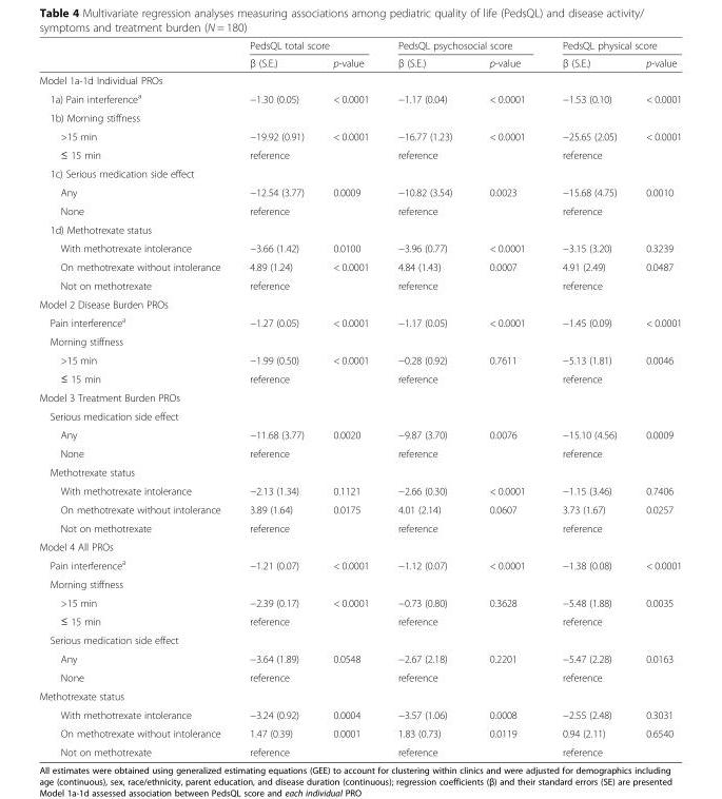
<table><thead><tr><td rowspan="2"></td><td colspan="2">PedsQL total score</td><td colspan="2">PedsQL psychosocial score</td><td colspan="2">PedsQL physical score</td></tr><tr><td>β (S.E.)</td><td>p-value</td><td>β (S.E.)</td><td>p-value</td><td>β (S.E.)</td><td>p-value</td></tr></thead><tbody><tr><td colspan="7">Model 1a-1d Individual PROs</td></tr><tr><td>1a) Pain interference<sup>a</sup></td><td>−1.30 (0.05)</td><td>&lt; 0.0001</td><td>−1.17 (0.04)</td><td>&lt; 0.0001</td><td>−1.53 (0.10)</td><td>&lt; 0.0001</td></tr><tr><td colspan="7">1b) Morning stiffness</td></tr><tr><td>&gt;15 min</td><td>−19.92 (0.91)</td><td>&lt; 0.0001</td><td>−16.77 (1.23)</td><td>&lt; 0.0001</td><td>−25.65 (2.05)</td><td>&lt; 0.0001</td></tr><tr><td>≤ 15 min</td><td colspan="2">reference</td><td colspan="2">reference</td><td colspan="2">reference</td></tr><tr><td colspan="7">1c) Serious medication side effect</td></tr><tr><td>Any</td><td>−12.54 (3.77)</td><td>0.0009</td><td>−10.82 (3.54)</td><td>0.0023</td><td>−15.68 (4.75)</td><td>0.0010</td></tr><tr><td>None</td><td colspan="2">reference</td><td colspan="2">reference</td><td colspan="2">reference</td></tr><tr><td colspan="7">1d) Methotrexate status</td></tr><tr><td>With methotrexate intolerance</td><td>−3.66 (1.42)</td><td>0.0100</td><td>−3.96 (0.77)</td><td>&lt; 0.0001</td><td>−3.15 (3.20)</td><td>0.3239</td></tr><tr><td>On methotrexate without intolerance</td><td>4.89 (1.24)</td><td>&lt; 0.0001</td><td>4.84 (1.43)</td><td>0.0007</td><td>4.91 (2.49)</td><td>0.0487</td></tr><tr><td>Not on methotrexate</td><td colspan="2">reference</td><td colspan="2">reference</td><td colspan="2">reference</td></tr><tr><td colspan="7">Model 2 Disease Burden PROs</td></tr><tr><td>Pain interference<sup>a</sup></td><td>−1.27 (0.05)</td><td>&lt; 0.0001</td><td>−1.17 (0.05)</td><td>&lt; 0.0001</td><td>−1.45 (0.09)</td><td>&lt; 0.0001</td></tr><tr><td colspan="7">Morning stiffness</td></tr><tr><td>&gt;15 min</td><td>−1.99 (0.50)</td><td>&lt; 0.0001</td><td>−0.28 (0.92)</td><td>0.7611</td><td>−5.13 (1.81)</td><td>0.0046</td></tr><tr><td>≤ 15 min</td><td colspan="2">reference</td><td colspan="2">reference</td><td colspan="2">reference</td></tr><tr><td colspan="7">Model 3 Treatment Burden PROs</td></tr><tr><td colspan="7">Serious medication side effect</td></tr><tr><td>Any</td><td>−11.68 (3.77)</td><td>0.0020</td><td>−9.87 (3.70)</td><td>0.0076</td><td>−15.10 (4.56)</td><td>0.0009</td></tr><tr><td>None</td><td colspan="2">reference</td><td colspan="2">reference</td><td colspan="2">reference</td></tr><tr><td colspan="7">Methotrexate status</td></tr><tr><td>With methotrexate intolerance</td><td>−2.13 (1.34)</td><td>0.1121</td><td>−2.66 (0.30)</td><td>&lt; 0.0001</td><td>−1.15 (3.46)</td><td>0.7406</td></tr><tr><td>On methotrexate without intolerance</td><td>3.89 (1.64)</td><td>0.0175</td><td>4.01 (2.14)</td><td>0.0607</td><td>3.73 (1.67)</td><td>0.0257</td></tr><tr><td>Not on methotrexate</td><td colspan="2">reference</td><td colspan="2">reference</td><td colspan="2">reference</td></tr><tr><td colspan="7">Model 4 All PROs</td></tr><tr><td>Pain interference<sup>a</sup></td><td>−1.21 (0.07)</td><td>&lt; 0.0001</td><td>−1.12 (0.07)</td><td>&lt; 0.0001</td><td>−1.38 (0.08)</td><td>&lt; 0.0001</td></tr><tr><td colspan="7">Morning stiffness</td></tr><tr><td>&gt;15 min</td><td>−2.39 (0.17)</td><td>&lt; 0.0001</td><td>−0.73 (0.80)</td><td>0.3628</td><td>−5.48 (1.88)</td><td>0.0035</td></tr><tr><td>≤ 15 min</td><td colspan="2">reference</td><td colspan="2">reference</td><td colspan="2">reference</td></tr><tr><td colspan="7">Serious medication side effect</td></tr><tr><td>Any</td><td>−3.64 (1.89)</td><td>0.0548</td><td>−2.67 (2.18)</td><td>0.2201</td><td>−5.47 (2.28)</td><td>0.0163</td></tr><tr><td>None</td><td colspan="2">reference</td><td colspan="2">reference</td><td colspan="2">reference</td></tr><tr><td colspan="7">Methotrexate status</td></tr><tr><td>With methotrexate intolerance</td><td>−3.24 (0.92)</td><td>0.0004</td><td>−3.57 (1.06)</td><td>0.0008</td><td>−2.55 (2.48)</td><td>0.3031</td></tr><tr><td>On methotrexate without intolerance</td><td>1.47 (0.39)</td><td>0.0001</td><td>1.83 (0.73)</td><td>0.0119</td><td>0.94 (2.11)</td><td>0.6540</td></tr><tr><td>Not on methotrexate</td><td colspan="2">reference</td><td colspan="2">reference</td><td colspan="2">reference</td></tr></tbody></table>